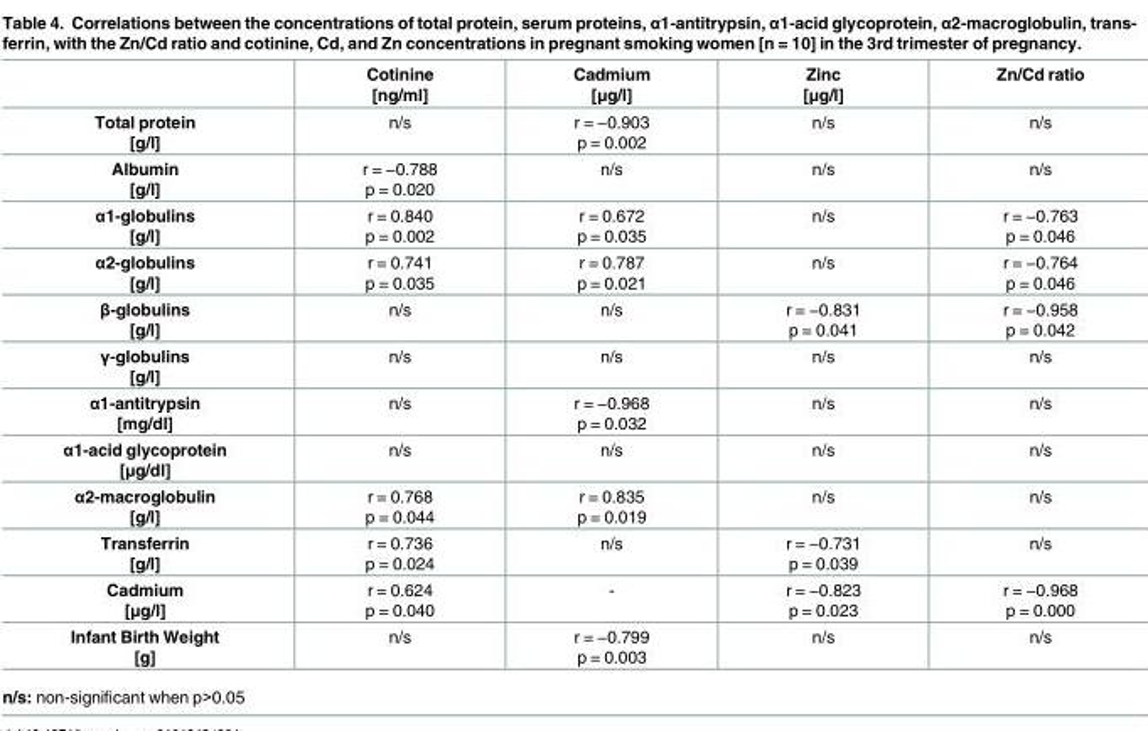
<table><thead><tr><td></td><td>Cotinine [ng/ml]</td><td>Cadmium [μg/l]</td><td>Zinc [μg/l]</td><td>Zn/Cd ratio</td></tr></thead><tbody><tr><td>Total protein [g/l]</td><td>n/s</td><td>r = −0.903 p = 0.002</td><td>n/s</td><td>n/s</td></tr><tr><td>Albumin [g/l]</td><td>r = −0.788 p = 0.020</td><td>n/s</td><td>n/s</td><td>n/s</td></tr><tr><td>α1-globulins [g/l]</td><td>r = 0.840 p = 0.002</td><td>r = 0.672 p = 0.035</td><td>n/s</td><td>r = −0.763 p = 0.046</td></tr><tr><td>α2-globulins [g/l]</td><td>r = 0.741 p = 0.035</td><td>r = 0.787 p = 0.021</td><td>n/s</td><td>r = −0.764 p = 0.046</td></tr><tr><td>β-globulins [g/l]</td><td>n/s</td><td>n/s</td><td>r = −0.831 p = 0.041</td><td>r = −0.958 p = 0.042</td></tr><tr><td>γ-globulins [g/l]</td><td>n/s</td><td>n/s</td><td>n/s</td><td>n/s</td></tr><tr><td>α1-antitrypsin [mg/dl]</td><td>n/s</td><td>r = −0.968 p = 0.032</td><td>n/s</td><td>n/s</td></tr><tr><td>α1-acid glycoprotein [μg/dl]</td><td>n/s</td><td>n/s</td><td>n/s</td><td>n/s</td></tr><tr><td>α2-macroglobulin [g/l]</td><td>r = 0.768 p = 0.044</td><td>r = 0.835 p = 0.019</td><td>n/s</td><td>n/s</td></tr><tr><td>Transferrin [g/l]</td><td>r = 0.736 p = 0.024</td><td>n/s</td><td>r = −0.731 p = 0.039</td><td>n/s</td></tr><tr><td>Cadmium [μg/l]</td><td>r = 0.624 p = 0.040</td><td>-</td><td>r = −0.823 p = 0.023</td><td>r = −0.968 p = 0.000</td></tr><tr><td>Infant Birth Weight [g]</td><td>n/s</td><td>r = −0.799 p = 0.003</td><td>n/s</td><td>n/s</td></tr></tbody></table>